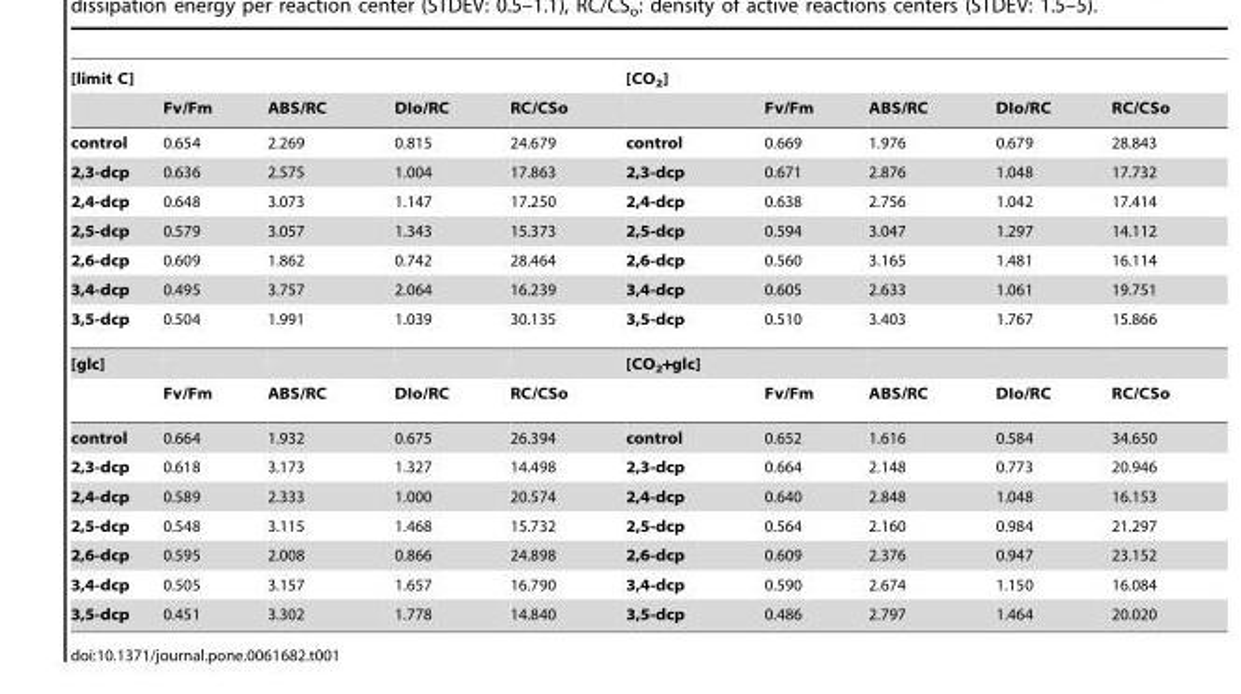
<table><thead><tr><td rowspan="2">[limit C]</td><td rowspan="2">Fv/Fm</td><td rowspan="2">ABS/RC</td><td rowspan="2">DIo/RC</td><td rowspan="2">RC/CSo</td><td rowspan="2">[CO<sub>2</sub>]</td><td rowspan="2">Fv/Fm</td><td rowspan="2">ABS/RC</td><td rowspan="2">DIo/RC</td><td rowspan="2">RC/CSo</td></tr><tr></tr></thead><tbody><tr><td>control</td><td>0.654</td><td>2.269</td><td>0.815</td><td>24.679</td><td>control</td><td>0.669</td><td>1.976</td><td>0.679</td><td>28.843</td></tr><tr><td>2,3-dcp</td><td>0.636</td><td>2.575</td><td>1.004</td><td>17.863</td><td>2,3-dcp</td><td>0.671</td><td>2.876</td><td>1.048</td><td>17.732</td></tr><tr><td>2,4-dcp</td><td>0.648</td><td>3.073</td><td>1.147</td><td>17.250</td><td>2,4-dcp</td><td>0.638</td><td>2.756</td><td>1.042</td><td>17.414</td></tr><tr><td>2,5-dcp</td><td>0.579</td><td>3.057</td><td>1.343</td><td>15.373</td><td>2,5-dcp</td><td>0.594</td><td>3.047</td><td>1.297</td><td>14.112</td></tr><tr><td>2,6-dcp</td><td>0.609</td><td>1.862</td><td>0.742</td><td>28.464</td><td>2,6-dcp</td><td>0.560</td><td>3.165</td><td>1.481</td><td>16.114</td></tr><tr><td>3,4-dcp</td><td>0.495</td><td>3.757</td><td>2.064</td><td>16.239</td><td>3,4-dcp</td><td>0.605</td><td>2.633</td><td>1.061</td><td>19.751</td></tr><tr><td>3,5-dcp</td><td>0.504</td><td>1.991</td><td>1.039</td><td>30.135</td><td>3,5-dcp</td><td>0.510</td><td>3.403</td><td>1.767</td><td>15.866</td></tr><tr><td rowspan="2">[glc]</td><td></td><td></td><td></td><td></td><td>[CO<sub>2</sub>+glc]</td><td></td><td></td><td></td><td></td></tr><tr><td>Fv/Fm</td><td>ABS/RC</td><td>DIo/RC</td><td>RC/CSo</td><td></td><td>Fv/Fm</td><td>ABS/RC</td><td>DIo/RC</td><td>RC/CSo</td></tr><tr><td>control</td><td>0.664</td><td>1.932</td><td>0.675</td><td>26.394</td><td>control</td><td>0.652</td><td>1.616</td><td>0.584</td><td>34.650</td></tr><tr><td>2,3-dcp</td><td>0.618</td><td>3.173</td><td>1.327</td><td>14.498</td><td>2,3-dcp</td><td>0.664</td><td>2.148</td><td>0.773</td><td>20.946</td></tr><tr><td>2,4-dcp</td><td>0.589</td><td>2.333</td><td>1.000</td><td>20.574</td><td>2,4-dcp</td><td>0.640</td><td>2.848</td><td>1.048</td><td>16.153</td></tr><tr><td>2,5-dcp</td><td>0.548</td><td>3.115</td><td>1.468</td><td>15.732</td><td>2,5-dcp</td><td>0.564</td><td>2.160</td><td>0.984</td><td>21.297</td></tr><tr><td>2,6-dcp</td><td>0.595</td><td>2.008</td><td>0.866</td><td>24.898</td><td>2,6-dcp</td><td>0.609</td><td>2.376</td><td>0.947</td><td>23.152</td></tr><tr><td>3,4-dcp</td><td>0.505</td><td>3.157</td><td>1.657</td><td>16.790</td><td>3,4-dcp</td><td>0.590</td><td>2.674</td><td>1.150</td><td>16.084</td></tr><tr><td>3,5-dcp</td><td>0.451</td><td>3.302</td><td>1.778</td><td>14.840</td><td>3,5-dcp</td><td>0.486</td><td>2.797</td><td>1.464</td><td>20.020</td></tr></tbody></table>